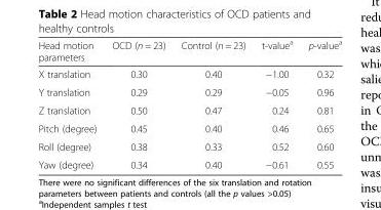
<table><thead><tr><td>Head motion parameters</td><td>OCD (n = 23)</td><td>Control (n = 23)</td><td>t-value<sup>a</sup></td><td>p-value<sup>a</sup></td></tr></thead><tbody><tr><td>X translation</td><td>0.30</td><td>0.40</td><td>−1.00</td><td>0.32</td></tr><tr><td>Y translation</td><td>0.29</td><td>0.29</td><td>−0.05</td><td>0.96</td></tr><tr><td>Z translation</td><td>0.50</td><td>0.47</td><td>0.24</td><td>0.81</td></tr><tr><td>Pitch (degree)</td><td>0.45</td><td>0.40</td><td>0.46</td><td>0.65</td></tr><tr><td>Roll (degree)</td><td>0.38</td><td>0.33</td><td>0.52</td><td>0.60</td></tr><tr><td>Yaw (degree)</td><td>0.34</td><td>0.40</td><td>−0.61</td><td>0.55</td></tr></tbody></table>